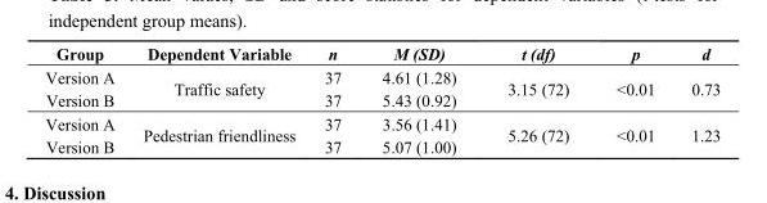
<table><thead><tr><td>Group</td><td>Dependent Variable</td><td>n</td><td>M (SD)</td><td>t (df)</td><td>p</td><td>d</td></tr></thead><tbody><tr><td>Version A Version B</td><td>Traffic safety</td><td>37 37</td><td>4.61 (1.28) 5.43 (0.92)</td><td>3.15 (72)</td><td>&lt;0.01</td><td>0.73</td></tr><tr><td>Version A Version B</td><td>Pedestrian friendliness</td><td>37 37</td><td>3.56 (1.41) 5.07 (1.00)</td><td>5.26 (72)</td><td>&lt;0.01</td><td>1.23</td></tr></tbody></table>